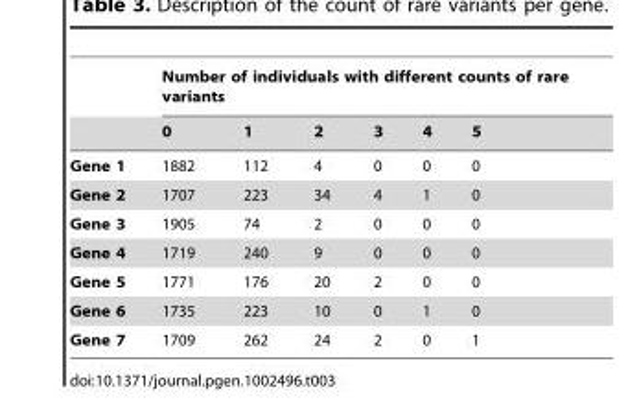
<table><thead><tr><td rowspan="2"></td><td colspan="6">Number of individuals with different counts of rare variants</td></tr><tr><td>0</td><td>1</td><td>2</td><td>3</td><td>4</td><td>5</td></tr></thead><tbody><tr><td>Gene 1</td><td>1882</td><td>112</td><td>4</td><td>0</td><td>0</td><td>0</td></tr><tr><td>Gene 2</td><td>1707</td><td>223</td><td>34</td><td>4</td><td>1</td><td>0</td></tr><tr><td>Gene 3</td><td>1905</td><td>74</td><td>2</td><td>0</td><td>0</td><td>0</td></tr><tr><td>Gene 4</td><td>1719</td><td>240</td><td>9</td><td>0</td><td>0</td><td>0</td></tr><tr><td>Gene 5</td><td>1771</td><td>176</td><td>20</td><td>2</td><td>0</td><td>0</td></tr><tr><td>Gene 6</td><td>1735</td><td>223</td><td>10</td><td>0</td><td>1</td><td>0</td></tr><tr><td>Gene 7</td><td>1709</td><td>262</td><td>24</td><td>2</td><td>0</td><td>1</td></tr></tbody></table>